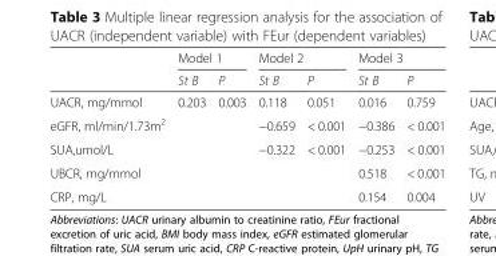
<table><thead><tr><td rowspan="2"></td><td colspan="2">Model 1</td><td colspan="2">Model 2</td><td colspan="2">Model 3</td></tr><tr><td>St B</td><td>P</td><td>St B</td><td>P</td><td>St B</td><td>P</td></tr></thead><tbody><tr><td>UACR, mg/mmol</td><td>0.203</td><td>0.003</td><td>0.118</td><td>0.051</td><td>0.016</td><td>0.759</td></tr><tr><td>eGFR, ml/min/1.73m<sup>2</sup></td><td></td><td></td><td>−0.659</td><td>&lt; 0.001</td><td>−0.386</td><td>&lt; 0.001</td></tr><tr><td>SUA,umol/L</td><td></td><td></td><td>−0.322</td><td>&lt; 0.001</td><td>−0.253</td><td>&lt; 0.001</td></tr><tr><td>UBCR, mg/mmol</td><td></td><td></td><td></td><td></td><td>0.518</td><td>&lt; 0.001</td></tr><tr><td>CRP, mg/L</td><td></td><td></td><td></td><td></td><td>0.154</td><td>0.004</td></tr></tbody></table>